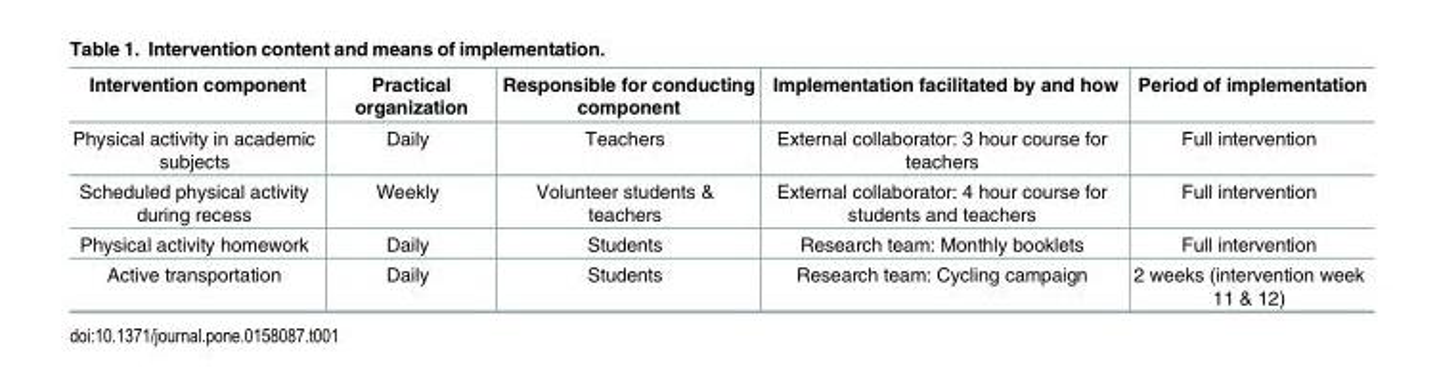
<table><thead><tr><td>Intervention component</td><td>Practical organization</td><td>Responsible for conducting component</td><td>Implementation facilitated by and how</td><td>Period of implementation</td></tr></thead><tbody><tr><td>Physical activity in academic subjects</td><td>Daily</td><td>Teachers</td><td>External collaborator: 3 hour course for teachers</td><td>Full intervention</td></tr><tr><td>Scheduled physical activity during recess</td><td>Weekly</td><td>Volunteer students &amp; teachers</td><td>External collaborator: 4 hour course for students and teachers</td><td>Full intervention</td></tr><tr><td>Physical activity homework</td><td>Daily</td><td>Students</td><td>Research team: Monthly booklets</td><td>Full intervention</td></tr><tr><td>Active transportation</td><td>Daily</td><td>Students</td><td>Research team: Cycling campaign</td><td>2 weeks (intervention week 11 &amp; 12)</td></tr></tbody></table>